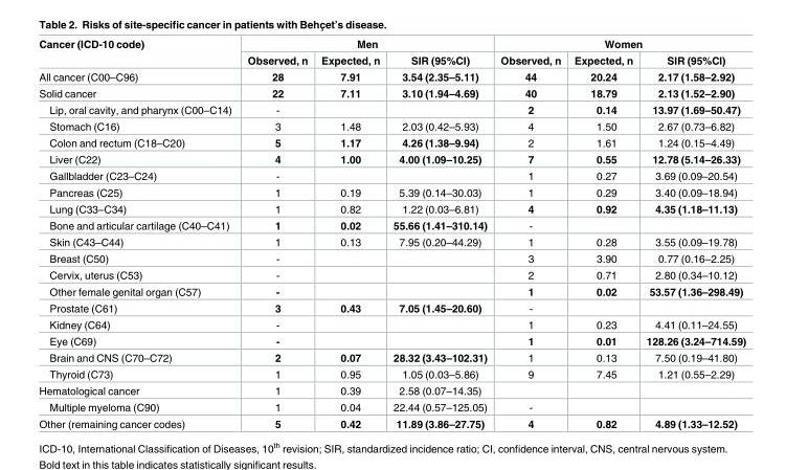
<table><thead><tr><td rowspan="2">Cancer (ICD-10 code)</td><td colspan="3">Men</td><td colspan="3">Women</td></tr><tr><td>Observed, n</td><td>Expected, n</td><td>SIR (95%CI)</td><td>Observed, n</td><td>Expected, n</td><td>SIR (95%CI)</td></tr></thead><tbody><tr><td>All cancer (C00–C96)</td><td>28</td><td>7.91</td><td>3.54 (2.35–5.11)</td><td>44</td><td>20.24</td><td>2.17 (1.58–2.92)</td></tr><tr><td>Solid cancer</td><td>22</td><td>7.11</td><td>3.10 (1.94–4.69)</td><td>40</td><td>18.79</td><td>2.13 (1.52–2.90)</td></tr><tr><td>Lip, oral cavity, and pharynx (C00–C14)</td><td>-</td><td></td><td></td><td>2</td><td>0.14</td><td>13.97 (1.69–50.47)</td></tr><tr><td>Stomach (C16)</td><td>3</td><td>1.48</td><td>2.03 (0.42–5.93)</td><td>4</td><td>1.50</td><td>2.67 (0.73–6.82)</td></tr><tr><td>Colon and rectum (C18–C20)</td><td>5</td><td>1.17</td><td>4.26 (1.38–9.94)</td><td>2</td><td>1.61</td><td>1.24 (0.15–4.49)</td></tr><tr><td>Liver (C22)</td><td>4</td><td>1.00</td><td>4.00 (1.09–10.25)</td><td>7</td><td>0.55</td><td>12.78 (5.14–26.33)</td></tr><tr><td>Gallbladder (C23–C24)</td><td>-</td><td></td><td></td><td>1</td><td>0.27</td><td>3.69 (0.09–20.54)</td></tr><tr><td>Pancreas (C25)</td><td>1</td><td>0.19</td><td>5.39 (0.14–30.03)</td><td>1</td><td>0.29</td><td>3.40 (0.09–18.94)</td></tr><tr><td>Lung (C33–C34)</td><td>1</td><td>0.82</td><td>1.22 (0.03–6.81)</td><td>4</td><td>0.92</td><td>4.35 (1.18–11.13)</td></tr><tr><td>Bone and articular cartilage (C40–C41)</td><td>1</td><td>0.02</td><td>55.66 (1.41–310.14)</td><td>-</td><td></td><td></td></tr><tr><td>Skin (C43–C44)</td><td>1</td><td>0.13</td><td>7.95 (0.20–44.29)</td><td>1</td><td>0.28</td><td>3.55 (0.09–19.78)</td></tr><tr><td>Breast (C50)</td><td>-</td><td></td><td></td><td>3</td><td>3.90</td><td>0.77 (0.16–2.25)</td></tr><tr><td>Cervix, uterus (C53)</td><td>-</td><td></td><td></td><td>2</td><td>0.71</td><td>2.80 (0.34–10.12)</td></tr><tr><td>Other female genital organ (C57)</td><td>-</td><td></td><td></td><td>1</td><td>0.02</td><td>53.57 (1.36–298.49)</td></tr><tr><td>Prostate (C61)</td><td>3</td><td>0.43</td><td>7.05 (1.45–20.60)</td><td>-</td><td></td><td></td></tr><tr><td>Kidney (C64)</td><td>-</td><td></td><td></td><td>1</td><td>0.23</td><td>4.41 (0.11–24.55)</td></tr><tr><td>Eye (C69)</td><td>-</td><td></td><td></td><td>1</td><td>0.01</td><td>128.26 (3.24–714.59)</td></tr><tr><td>Brain and CNS (C70–C72)</td><td>2</td><td>0.07</td><td>28.32 (3.43–102.31)</td><td>1</td><td>0.13</td><td>7.50 (0.19–41.80)</td></tr><tr><td>Thyroid (C73)</td><td>1</td><td>0.95</td><td>1.05 (0.03–5.86)</td><td>9</td><td>7.45</td><td>1.21 (0.55–2.29)</td></tr><tr><td>Hematological cancer</td><td>1</td><td>0.39</td><td>2.58 (0.07–14.35)</td><td></td><td></td><td></td></tr><tr><td>Multiple myeloma (C90)</td><td>1</td><td>0.04</td><td>22.44 (0.57–125.05)</td><td>-</td><td></td><td></td></tr><tr><td>Other (remaining cancer codes)</td><td>5</td><td>0.42</td><td>11.89 (3.86–27.75)</td><td>4</td><td>0.82</td><td>4.89 (1.33–12.52)</td></tr></tbody></table>